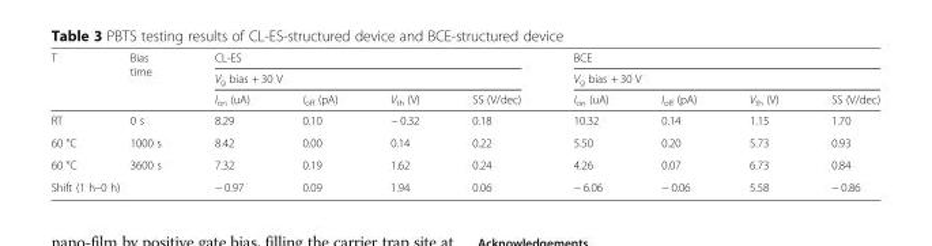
<table><thead><tr><td rowspan="3">T</td><td rowspan="3">Bias time</td><td rowspan="2" colspan="4">CL-ES V<sub>g</sub> bias + 30 V</td><td rowspan="2" colspan="4">BCE V<sub>g</sub> bias + 30 V</td></tr><tr></tr><tr><td>I<sub>on</sub> (uA)</td><td>I<sub>off</sub> (pA)</td><td>V<sub>th</sub> (V)</td><td>SS (V/dec)</td><td>I<sub>on</sub> (uA)</td><td>I<sub>off</sub> (pA)</td><td>V<sub>th</sub> (V)</td><td>SS (V/dec)</td></tr></thead><tbody><tr><td>RT</td><td>0 s</td><td>8.29</td><td>0.10</td><td>− 0.32</td><td>0.18</td><td>10.32</td><td>0.14</td><td>1.15</td><td>1.70</td></tr><tr><td>60 °C</td><td>1000 s</td><td>8.42</td><td>0.00</td><td>0.14</td><td>0.22</td><td>5.50</td><td>0.20</td><td>5.73</td><td>0.93</td></tr><tr><td>60 °C</td><td>3600 s</td><td>7.32</td><td>0.19</td><td>1.62</td><td>0.24</td><td>4.26</td><td>0.07</td><td>6.73</td><td>0.84</td></tr><tr><td colspan="2">Shift (1 h–0 h)</td><td>− 0.97</td><td>0.09</td><td>1.94</td><td>0.06</td><td>− 6.06</td><td>− 0.06</td><td>5.58</td><td>− 0.86</td></tr></tbody></table>